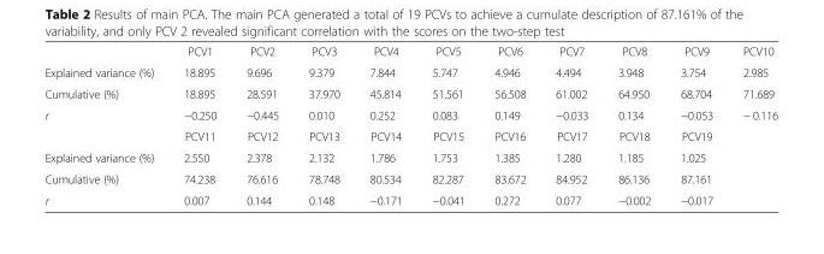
<table><thead><tr><td></td><td>PCV1</td><td>PCV2</td><td>PCV3</td><td>PCV4</td><td>PCV5</td><td>PCV6</td><td>PCV7</td><td>PCV8</td><td>PCV9</td><td>PCV10</td></tr></thead><tbody><tr><td>Explained variance (%)</td><td>18.895</td><td>9.696</td><td>9.379</td><td>7.844</td><td>5.747</td><td>4.946</td><td>4.494</td><td>3.948</td><td>3.754</td><td>2.985</td></tr><tr><td>Cumulative (%)</td><td>18.895</td><td>28.591</td><td>37.970</td><td>45.814</td><td>51.561</td><td>56.508</td><td>61.002</td><td>64.950</td><td>68.704</td><td>71.689</td></tr><tr><td rowspan="2">r</td><td>−0.250</td><td>−0.445</td><td>0.010</td><td>0.252</td><td>0.083</td><td>0.149</td><td>−0.033</td><td>0.134</td><td>−0.053</td><td>− 0.116</td></tr><tr><td>PCV11</td><td>PCV12</td><td>PCV13</td><td>PCV14</td><td>PCV15</td><td>PCV16</td><td>PCV17</td><td>PCV18</td><td>PCV19</td><td></td></tr><tr><td>Explained variance (%)</td><td>2.550</td><td>2.378</td><td>2.132</td><td>1.786</td><td>1.753</td><td>1.385</td><td>1.280</td><td>1.185</td><td>1.025</td><td></td></tr><tr><td>Cumulative (%)</td><td>74.238</td><td>76.616</td><td>78.748</td><td>80.534</td><td>82.287</td><td>83.672</td><td>84.952</td><td>86.136</td><td>87.161</td><td></td></tr><tr><td>r</td><td>0.007</td><td>0.144</td><td>0.148</td><td>−0.171</td><td>−0.041</td><td>0.272</td><td>0.077</td><td>−0.002</td><td>−0.017</td><td></td></tr></tbody></table>